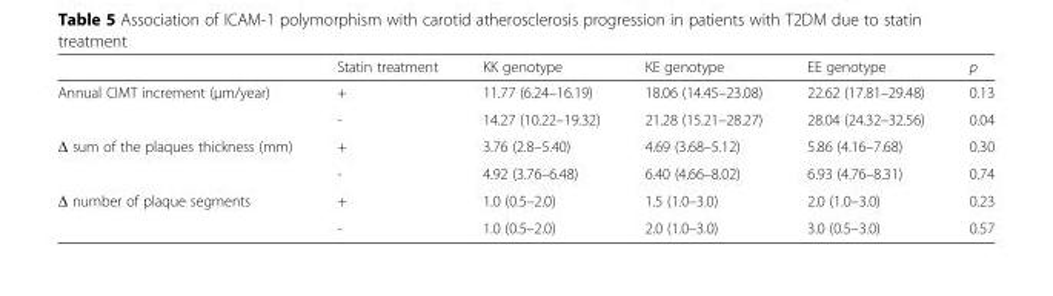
<table><thead><tr><td></td><td>Statin treatment</td><td>KK genotype</td><td>KE genotype</td><td>EE genotype</td><td>p</td></tr></thead><tbody><tr><td rowspan="2">Annual CIMT increment (μm/year)</td><td>+</td><td>11.77 (6.24–16.19)</td><td>18.06 (14.45–23.08)</td><td>22.62 (17.81–29.48)</td><td>0.13</td></tr><tr><td>-</td><td>14.27 (10.22–19.32)</td><td>21.28 (15.21–28.27)</td><td>28.04 (24.32–32.56)</td><td>0.04</td></tr><tr><td rowspan="2">Δ sum of the plaques thickness (mm)</td><td>+</td><td>3.76 (2.8–5.40)</td><td>4.69 (3.68–5.12)</td><td>5.86 (4.16–7.68)</td><td>0.30</td></tr><tr><td>-</td><td>4.92 (3.76–6.48)</td><td>6.40 (4.66–8.02)</td><td>6.93 (4.76–8.31)</td><td>0.74</td></tr><tr><td rowspan="2">Δ number of plaque segments</td><td>+</td><td>1.0 (0.5–2.0)</td><td>1.5 (1.0–3.0)</td><td>2.0 (1.0–3.0)</td><td>0.23</td></tr><tr><td>-</td><td>1.0 (0.5–2.0)</td><td>2.0 (1.0–3.0)</td><td>3.0 (0.5–3.0)</td><td>0.57</td></tr></tbody></table>